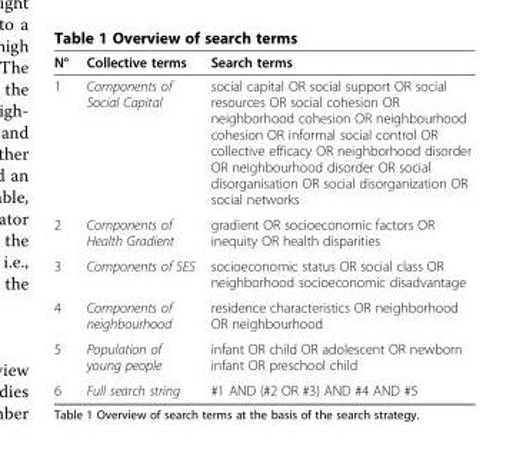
<table><thead><tr><td>N°</td><td>Collective terms</td><td>Search terms</td></tr></thead><tbody><tr><td>1</td><td>Components of Social Capital</td><td>social capital OR social support OR social resources OR social cohesion OR neighborhood cohesion OR neighbourhood cohesion OR informal social control OR collective efficacy OR neighborhood disorder OR neighbourhood disorder OR social disorganisation OR social disorganization OR social networks</td></tr><tr><td>2</td><td>Components of Health Gradient</td><td>gradient OR socioeconomic factors OR inequity OR health disparities</td></tr><tr><td>3</td><td>Components of SES</td><td>socioeconomic status OR social class OR neighborhood socioeconomic disadvantage</td></tr><tr><td>4</td><td>Components of neighbourhood</td><td>residence characteristics OR neighborhood OR neighbourhood</td></tr><tr><td>5</td><td>Population of young people</td><td>infant OR child OR adolescent OR newborn infant OR preschool child</td></tr><tr><td>6</td><td>Full search string</td><td>#1 AND (#2 OR #3) AND #4 AND #5</td></tr></tbody></table>